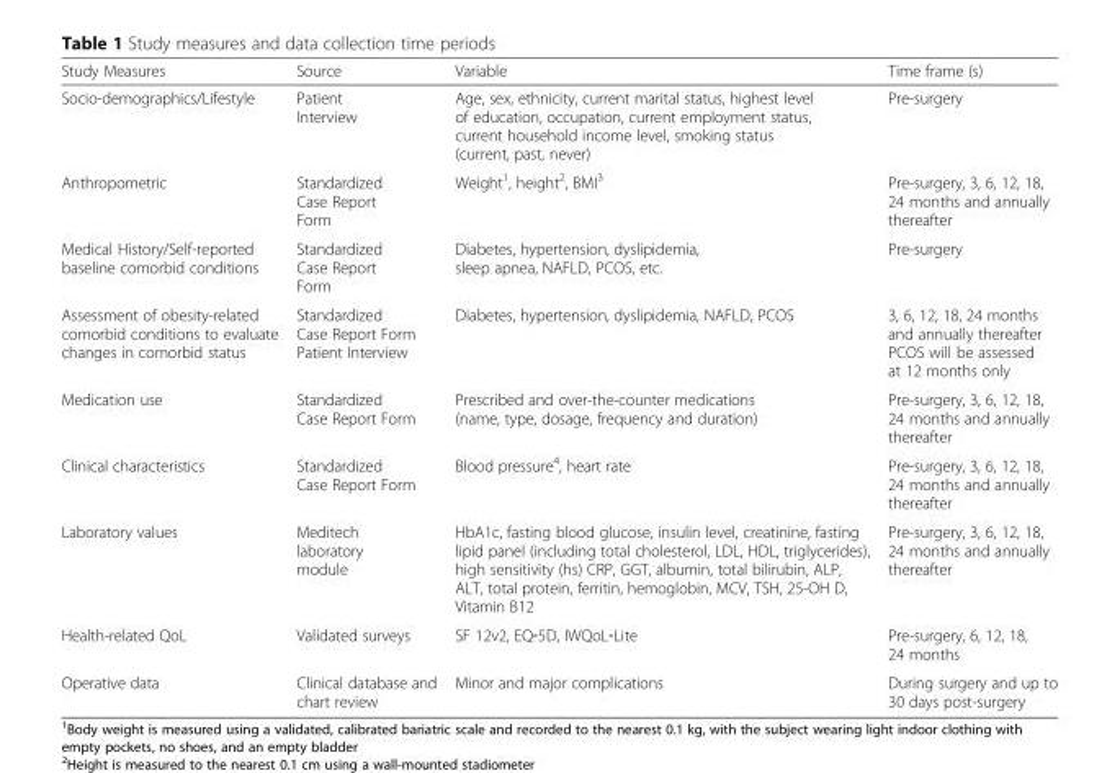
<table><thead><tr><td>Study Measures</td><td>Source</td><td>Variable</td><td>Time frame (s)</td></tr></thead><tbody><tr><td>Socio-demographics/Lifestyle</td><td>Patient Interview</td><td>Age, sex, ethnicity, current marital status, highest level of education, occupation, current employment status, current household income level, smoking status (current, past, never)</td><td>Pre-surgery</td></tr><tr><td>Anthropometric</td><td>Standardized Case Report Form</td><td>Weight<sup>1</sup>, height<sup>2</sup>, BMI<sup>3</sup></td><td>Pre-surgery, 3, 6, 12, 18, 24 months and annually thereafter</td></tr><tr><td>Medical History/Self-reported baseline comorbid conditions</td><td>Standardized Case Report Form</td><td>Diabetes, hypertension, dyslipidemia, sleep apnea, NAFLD, PCOS, etc.</td><td>Pre-surgery</td></tr><tr><td>Assessment of obesity-related comorbid conditions to evaluate changes in comorbid status</td><td>Standardized Case Report Form Patient Interview</td><td>Diabetes, hypertension, dyslipidemia, NAFLD, PCOS</td><td>3, 6, 12, 18, 24 months and annually thereafter PCOS will be assessed at 12 months only</td></tr><tr><td>Medication use</td><td>Standardized Case Report Form</td><td>Prescribed and over-the-counter medications (name, type, dosage, frequency and duration)</td><td>Pre-surgery, 3, 6, 12, 18, 24 months and annually thereafter</td></tr><tr><td>Clinical characteristics</td><td>Standardized Case Report Form</td><td>Blood pressure<sup>4</sup>, heart rate</td><td>Pre-surgery, 3, 6, 12, 18, 24 months and annually thereafter</td></tr><tr><td>Laboratory values</td><td>Meditech laboratory module</td><td>HbA1c, fasting blood glucose, insulin level, creatinine, fasting lipid panel (including total cholesterol, LDL, HDL, triglycerides), high sensitivity (hs) CRP, GGT, albumin, total bilirubin, ALP, ALT, total protein, ferritin, hemoglobin, MCV, TSH, 25-OH D, Vitamin B12</td><td>Pre-surgery, 3, 6, 12, 18, 24 months and annually thereafter</td></tr><tr><td>Health-related QoL</td><td>Validated surveys</td><td>SF 12v2, EQ‐5D, IWQoL‐Lite</td><td>Pre-surgery, 6, 12, 18, 24 months</td></tr><tr><td>Operative data</td><td>Clinical database and chart review</td><td>Minor and major complications</td><td>During surgery and up to 30 days post-surgery</td></tr></tbody></table>